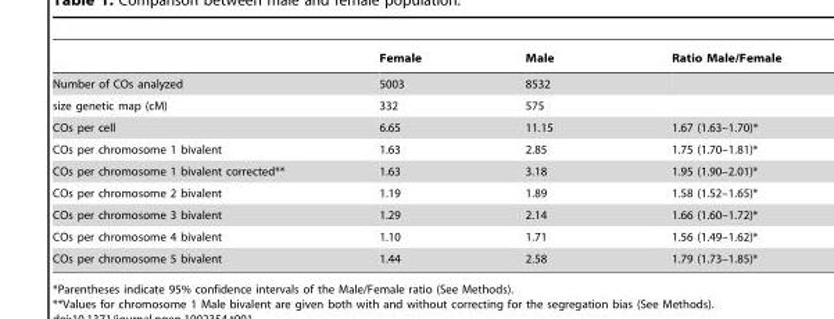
<table><thead><tr><td></td><td>Female</td><td>Male</td><td>Ratio Male/Female</td></tr></thead><tbody><tr><td>Number of COs analyzed</td><td>5003</td><td>8532</td><td></td></tr><tr><td>size genetic map (cM)</td><td>332</td><td>575</td><td></td></tr><tr><td>COs per cell</td><td>6.65</td><td>11.15</td><td>1.67 (1.63–1.70)*</td></tr><tr><td>COs per chromosome 1 bivalent</td><td>1.63</td><td>2.85</td><td>1.75 (1.70–1.81)*</td></tr><tr><td>COs per chromosome 1 bivalent corrected**</td><td>1.63</td><td>3.18</td><td>1.95 (1.90–2.01)*</td></tr><tr><td>COs per chromosome 2 bivalent</td><td>1.19</td><td>1.89</td><td>1.58 (1.52–1.65)*</td></tr><tr><td>COs per chromosome 3 bivalent</td><td>1.29</td><td>2.14</td><td>1.66 (1.60–1.72)*</td></tr><tr><td>COs per chromosome 4 bivalent</td><td>1.10</td><td>1.71</td><td>1.56 (1.49–1.62)*</td></tr><tr><td>COs per chromosome 5 bivalent</td><td>1.44</td><td>2.58</td><td>1.79 (1.73–1.85)*</td></tr></tbody></table>